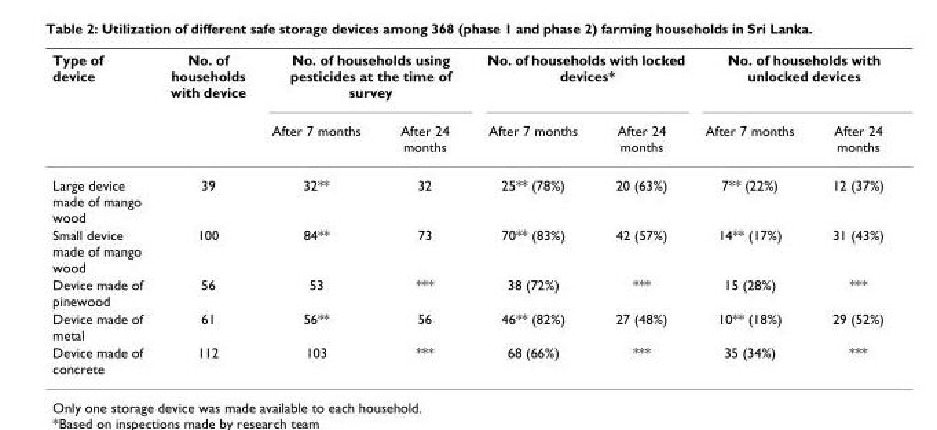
<table><thead><tr><td rowspan="2">Type of device</td><td rowspan="2">No. of households with device</td><td colspan="2">No. of households using pesticides at the time of survey</td><td colspan="2">No. of households with locked devices*</td><td colspan="2">No. of households with unlocked devices</td></tr><tr><td>After 7 months</td><td>After 24 months</td><td>After 7 months</td><td>After 24 months</td><td>After 7 months</td><td>After 24 months</td></tr></thead><tbody><tr><td>Large device made of mango wood</td><td>39</td><td>32**</td><td>32</td><td>25** (78%)</td><td>20 (63%)</td><td>7** (22%)</td><td>12 (37%)</td></tr><tr><td>Small device made of mango wood</td><td>100</td><td>84**</td><td>73</td><td>70** (83%)</td><td>42 (57%)</td><td>14** (17%)</td><td>31 (43%)</td></tr><tr><td>Device made of pinewood</td><td>56</td><td>53</td><td>***</td><td>38 (72%)</td><td>***</td><td>15 (28%)</td><td>***</td></tr><tr><td>Device made of metal</td><td>61</td><td>56**</td><td>56</td><td>46** (82%)</td><td>27 (48%)</td><td>10** (18%)</td><td>29 (52%)</td></tr><tr><td>Device made of concrete</td><td>112</td><td>103</td><td>***</td><td>68 (66%)</td><td>***</td><td>35 (34%)</td><td>***</td></tr></tbody></table>